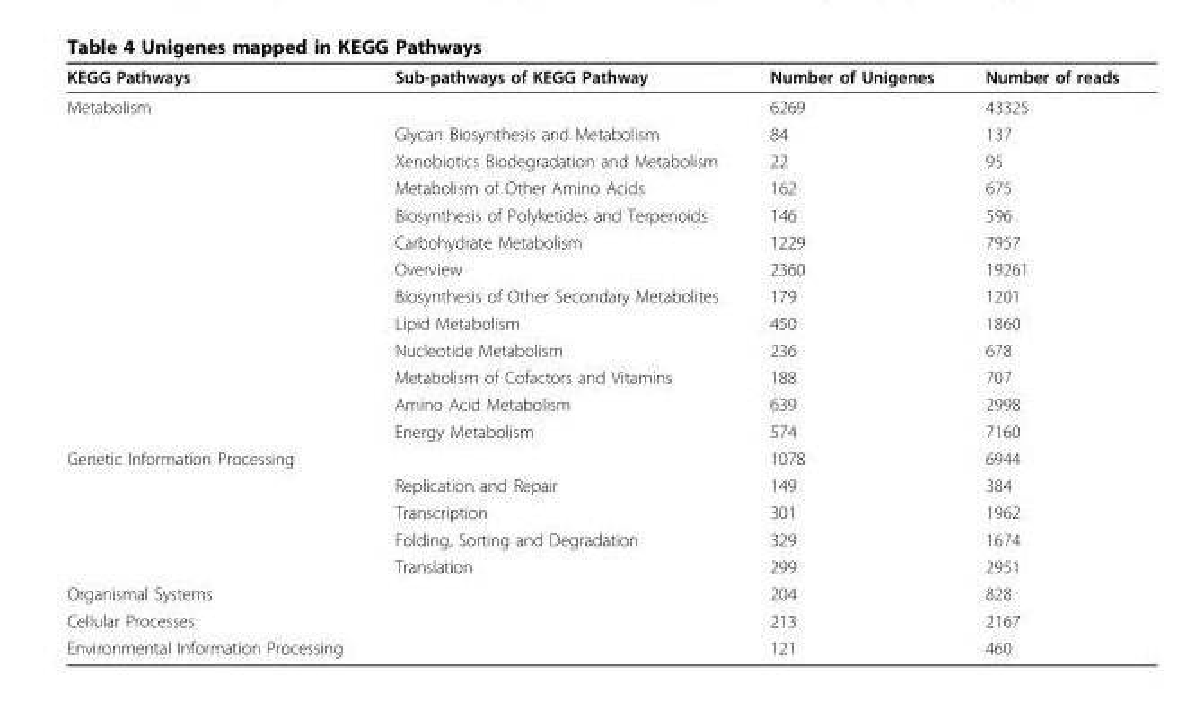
<table><thead><tr><td>KEGG Pathways</td><td>Sub-pathways of KEGG Pathway</td><td>Number of Unigenes</td><td>Number of reads</td></tr></thead><tbody><tr><td rowspan="13">Metabolism</td><td></td><td>6269</td><td>43325</td></tr><tr><td>Glycan Biosynthesis and Metabolism</td><td>84</td><td>137</td></tr><tr><td>Xenobiotics Biodegradation and Metabolism</td><td>22</td><td>95</td></tr><tr><td>Metabolism of Other Amino Acids</td><td>162</td><td>675</td></tr><tr><td>Biosynthesis of Polyketides and Terpenoids</td><td>146</td><td>596</td></tr><tr><td>Carbohydrate Metabolism</td><td>1229</td><td>7957</td></tr><tr><td>Overview</td><td>2360</td><td>19261</td></tr><tr><td>Biosynthesis of Other Secondary Metabolites</td><td>179</td><td>1201</td></tr><tr><td>Lipid Metabolism</td><td>450</td><td>1860</td></tr><tr><td>Nucleotide Metabolism</td><td>236</td><td>678</td></tr><tr><td>Metabolism of Cofactors and Vitamins</td><td>188</td><td>707</td></tr><tr><td>Amino Acid Metabolism</td><td>639</td><td>2998</td></tr><tr><td>Energy Metabolism</td><td>574</td><td>7160</td></tr><tr><td rowspan="5">Genetic Information Processing</td><td></td><td>1078</td><td>6944</td></tr><tr><td>Replication and Repair</td><td>149</td><td>384</td></tr><tr><td>Transcription</td><td>301</td><td>1962</td></tr><tr><td>Folding, Sorting and Degradation</td><td>329</td><td>1674</td></tr><tr><td>Translation</td><td>299</td><td>2951</td></tr><tr><td>Organismal Systems</td><td></td><td>204</td><td>828</td></tr><tr><td>Cellular Processes</td><td></td><td>213</td><td>2167</td></tr><tr><td>Environmental Information Processing</td><td></td><td>121</td><td>460</td></tr></tbody></table>